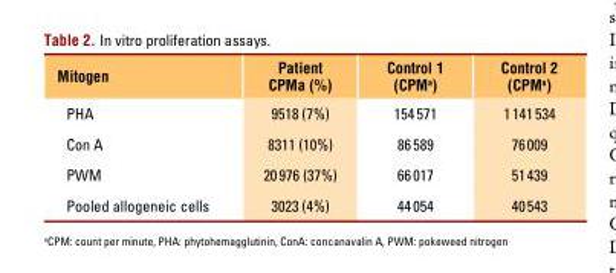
<table><thead><tr><td>Mitogen</td><td>Patient CPMa (%)</td><td>Control 1 (CPM<sup>a</sup>)</td><td>Control 2 (CPM<sup>a</sup>)</td></tr></thead><tbody><tr><td>PHA</td><td>9518 (7%)</td><td>154 571</td><td>1 141 534</td></tr><tr><td>Con A</td><td>8311 (10%)</td><td>86 589</td><td>76 009</td></tr><tr><td>PWM</td><td>20 976 (37%)</td><td>66 017</td><td>51 439</td></tr><tr><td>Pooled allogeneic cells</td><td>3023 (4%)</td><td>44 054</td><td>40 543</td></tr></tbody></table>